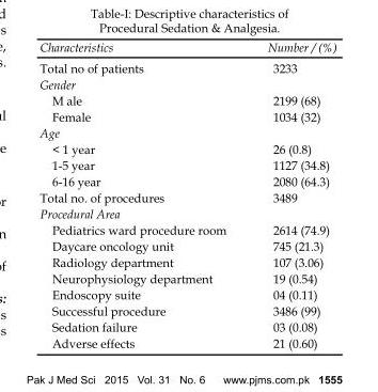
<table><thead><tr><td>Characteristics</td><td>Number / (%)</td></tr></thead><tbody><tr><td>Total no of patients</td><td>3233</td></tr><tr><td colspan="2">Gender</td></tr><tr><td>M ale</td><td>2199 (68)</td></tr><tr><td>Female</td><td>1034 (32)</td></tr><tr><td colspan="2">Age</td></tr><tr><td>&lt; 1 year</td><td>26 (0.8)</td></tr><tr><td>1-5 year</td><td>1127 (34.8)</td></tr><tr><td>6-16 year</td><td>2080 (64.3)</td></tr><tr><td>Total no. of procedures</td><td>3489</td></tr><tr><td colspan="2">Procedural Area</td></tr><tr><td>Pediatrics ward procedure room</td><td>2614 (74.9)</td></tr><tr><td>Daycare oncology unit</td><td>745 (21.3)</td></tr><tr><td>Radiology department</td><td>107 (3.06)</td></tr><tr><td>Neurophysiology department</td><td>19 (0.54)</td></tr><tr><td>Endoscopy suite</td><td>04 (0.11)</td></tr><tr><td>Successful procedure</td><td>3486 (99)</td></tr><tr><td>Sedation failure</td><td>03 (0.08)</td></tr><tr><td>Adverse effects</td><td>21 (0.60)</td></tr></tbody></table>